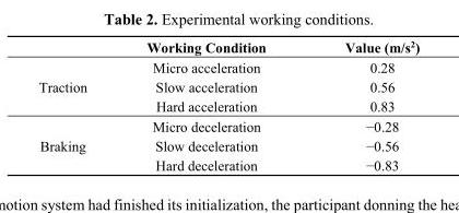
<table><thead><tr><td></td><td>Working Condition</td><td>Value (m/s<sup>2</sup>)</td></tr></thead><tbody><tr><td rowspan="3">Traction</td><td>Micro acceleration</td><td>0.28</td></tr><tr><td>Slow acceleration</td><td>0.56</td></tr><tr><td>Hard acceleration</td><td>0.83</td></tr><tr><td rowspan="3">Braking</td><td>Micro deceleration</td><td>−0.28</td></tr><tr><td>Slow deceleration</td><td>−0.56</td></tr><tr><td>Hard deceleration</td><td>−0.83</td></tr></tbody></table>